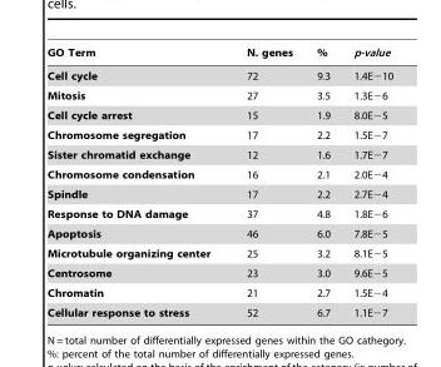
<table><thead><tr><td>GO Term</td><td>N. genes</td><td>%</td><td>p-value</td></tr></thead><tbody><tr><td>Cell cycle</td><td>72</td><td>9.3</td><td>1.4E−10</td></tr><tr><td>Mitosis</td><td>27</td><td>3.5</td><td>1.3E−6</td></tr><tr><td>Cell cycle arrest</td><td>15</td><td>1.9</td><td>8.0E−5</td></tr><tr><td>Chromosome segregation</td><td>17</td><td>2.2</td><td>1.5E−7</td></tr><tr><td>Sister chromatid exchange</td><td>12</td><td>1.6</td><td>1.7E−7</td></tr><tr><td>Chromosome condensation</td><td>16</td><td>2.1</td><td>2.0E−4</td></tr><tr><td>Spindle</td><td>17</td><td>2.2</td><td>2.7E−4</td></tr><tr><td>Response to DNA damage</td><td>37</td><td>4.8</td><td>1.8E−6</td></tr><tr><td>Apoptosis</td><td>46</td><td>6.0</td><td>7.8E−5</td></tr><tr><td>Microtubule organizing center</td><td>25</td><td>3.2</td><td>8.1E−5</td></tr><tr><td>Centrosome</td><td>23</td><td>3.0</td><td>9.6E−5</td></tr><tr><td>Chromatin</td><td>21</td><td>2.7</td><td>1.5E−4</td></tr><tr><td>Cellular response to stress</td><td>52</td><td>6.7</td><td>1.1E−7</td></tr></tbody></table>